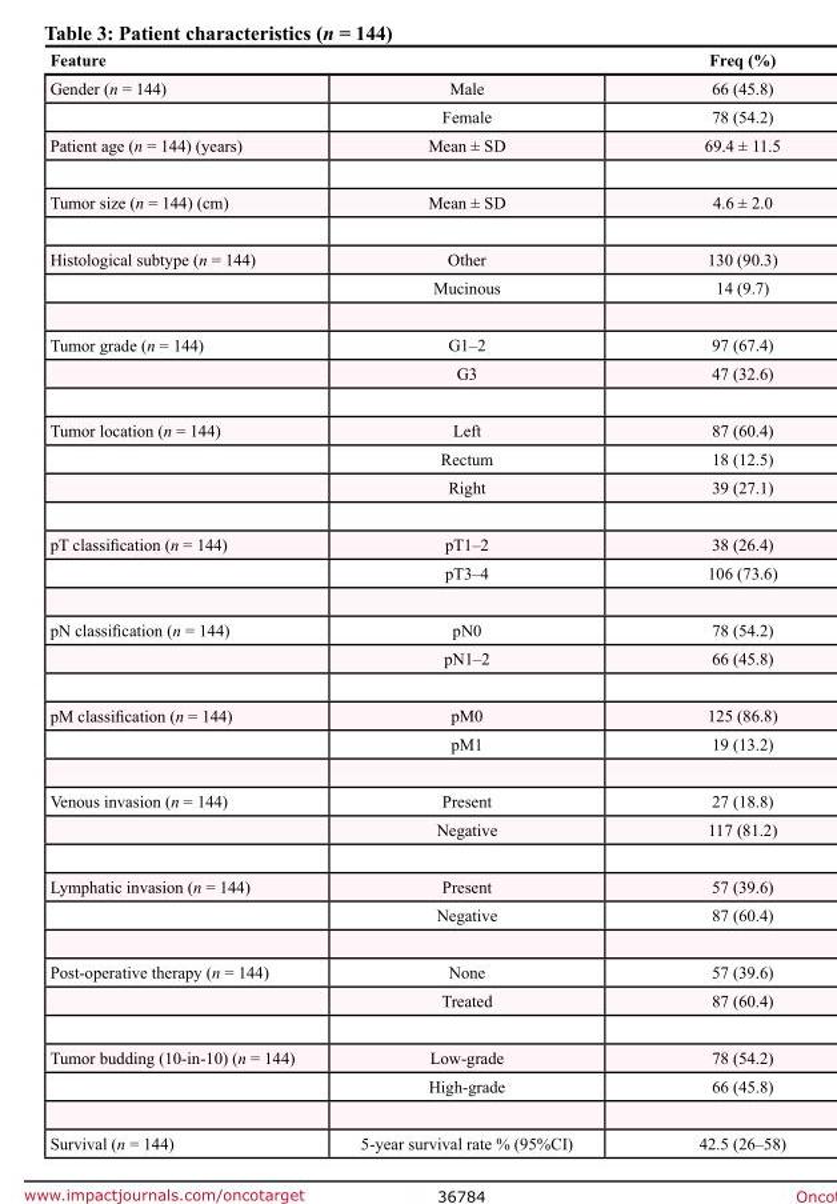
<table><thead><tr><td>Feature</td><td></td><td>Freq (%)</td></tr></thead><tbody><tr><td rowspan="2">Gender (n = 144)</td><td>Male</td><td>66 (45.8)</td></tr><tr><td>Female</td><td>78 (54.2)</td></tr><tr><td>Patient age (n = 144) (years)</td><td>Mean ± SD</td><td>69.4 ± 11.5</td></tr><tr><td>Tumor size (n = 144) (cm)</td><td>Mean ± SD</td><td>4.6 ± 2.0</td></tr><tr><td rowspan="2">Histological subtype (n = 144)</td><td>Other</td><td>130 (90.3)</td></tr><tr><td>Mucinous</td><td>14 (9.7)</td></tr><tr><td rowspan="2">Tumor grade (n = 144)</td><td>G1–2</td><td>97 (67.4)</td></tr><tr><td>G3</td><td>47 (32.6)</td></tr><tr><td rowspan="3">Tumor location (n = 144)</td><td>Left</td><td>87 (60.4)</td></tr><tr><td>Rectum</td><td>18 (12.5)</td></tr><tr><td>Right</td><td>39 (27.1)</td></tr><tr><td rowspan="2">pT classification (n = 144)</td><td>pT1–2</td><td>38 (26.4)</td></tr><tr><td>pT3–4</td><td>106 (73.6)</td></tr><tr><td rowspan="2">pN classification (n = 144)</td><td>pN0</td><td>78 (54.2)</td></tr><tr><td>pN1–2</td><td>66 (45.8)</td></tr><tr><td rowspan="2">pM classification (n = 144)</td><td>pM0</td><td>125 (86.8)</td></tr><tr><td>pM1</td><td>19 (13.2)</td></tr><tr><td rowspan="2">Venous invasion (n = 144)</td><td>Present</td><td>27 (18.8)</td></tr><tr><td>Negative</td><td>117 (81.2)</td></tr><tr><td rowspan="2">Lymphatic invasion (n = 144)</td><td>Present</td><td>57 (39.6)</td></tr><tr><td>Negative</td><td>87 (60.4)</td></tr><tr><td rowspan="2">Post-operative therapy (n = 144)</td><td>None</td><td>57 (39.6)</td></tr><tr><td>Treated</td><td>87 (60.4)</td></tr><tr><td rowspan="2">Tumor budding (10-in-10) (n = 144)</td><td>Low-grade</td><td>78 (54.2)</td></tr><tr><td>High-grade</td><td>66 (45.8)</td></tr><tr><td>Survival (n = 144)</td><td>5-year survival rate % (95%CI)</td><td>42.5 (26–58)</td></tr></tbody></table>